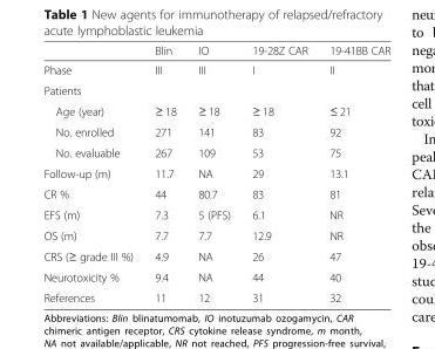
<table><thead><tr><td></td><td>Blin</td><td>IO</td><td>19-28Z CAR</td><td>19-41BB CAR</td></tr></thead><tbody><tr><td>Phase</td><td>III</td><td>III</td><td>I</td><td>II</td></tr><tr><td colspan="5">Patients</td></tr><tr><td>Age (year)</td><td>≥ 18</td><td>≥ 18</td><td>≥ 18</td><td>≤ 21</td></tr><tr><td>No. enrolled</td><td>271</td><td>141</td><td>83</td><td>92</td></tr><tr><td>No. evaluable</td><td>267</td><td>109</td><td>53</td><td>75</td></tr><tr><td>Follow-up (m)</td><td>11.7</td><td>NA</td><td>29</td><td>13.1</td></tr><tr><td>CR %</td><td>44</td><td>80.7</td><td>83</td><td>81</td></tr><tr><td>EFS (m)</td><td>7.3</td><td>5 (PFS)</td><td>6.1</td><td>NR</td></tr><tr><td>OS (m)</td><td>7.7</td><td>7.7</td><td>12.9</td><td>NR</td></tr><tr><td>CRS (≥ grade III %)</td><td>4.9</td><td>NA</td><td>26</td><td>47</td></tr><tr><td>Neurotoxicity %</td><td>9.4</td><td>NA</td><td>44</td><td>40</td></tr><tr><td>References</td><td>11</td><td>12</td><td>31</td><td>32</td></tr></tbody></table>